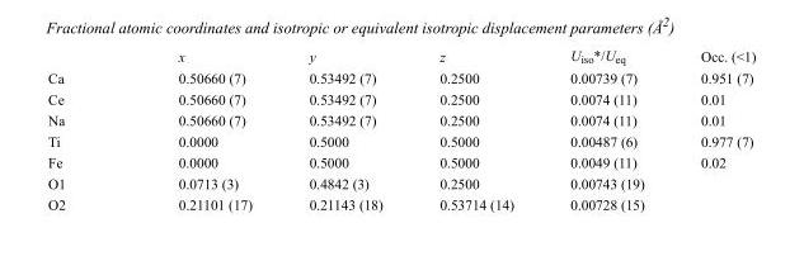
<table><thead><tr><td></td><td>x</td><td>y</td><td>z</td><td>U<sub>iso</sub>*/U<sub>eq</sub></td><td>Occ. (&lt;1)</td></tr></thead><tbody><tr><td>Ca</td><td>0.50660 (7)</td><td>0.53492 (7)</td><td>0.2500</td><td>0.00739 (7)</td><td>0.951 (7)</td></tr><tr><td>Ce</td><td>0.50660 (7)</td><td>0.53492 (7)</td><td>0.2500</td><td>0.0074 (11)</td><td>0.01</td></tr><tr><td>Na</td><td>0.50660 (7)</td><td>0.53492 (7)</td><td>0.2500</td><td>0.0074 (11)</td><td>0.01</td></tr><tr><td>Ti</td><td>0.0000</td><td>0.5000</td><td>0.5000</td><td>0.00487 (6)</td><td>0.977 (7)</td></tr><tr><td>Fe</td><td>0.0000</td><td>0.5000</td><td>0.5000</td><td>0.0049 (11)</td><td>0.02</td></tr><tr><td>O1</td><td>0.0713 (3)</td><td>0.4842 (3)</td><td>0.2500</td><td>0.00743 (19)</td><td></td></tr><tr><td>O2</td><td>0.21101 (17)</td><td>0.21143 (18)</td><td>0.53714 (14)</td><td>0.00728 (15)</td><td></td></tr></tbody></table>